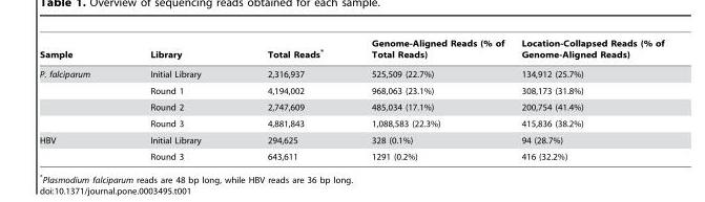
<table><thead><tr><td>Sample</td><td>Library</td><td>Total Reads*</td><td>Genome-Aligned Reads (% of Total Reads)</td><td>Location-Collapsed Reads (% of Genome-Aligned Reads)</td></tr></thead><tbody><tr><td rowspan="4">P. falciparum</td><td>Initial Library</td><td>2,316,937</td><td>525,509 (22.7%)</td><td>134,912 (25.7%)</td></tr><tr><td>Round 1</td><td>4,194,002</td><td>968,063 (23.1%)</td><td>308,173 (31.8%)</td></tr><tr><td>Round 2</td><td>2,747,609</td><td>485,034 (17.1%)</td><td>200,754 (41.4%)</td></tr><tr><td>Round 3</td><td>4,881,843</td><td>1,088,583 (22.3%)</td><td>415,836 (38.2%)</td></tr><tr><td rowspan="2">HBV</td><td>Initial Library</td><td>294,625</td><td>328 (0.1%)</td><td>94 (28.7%)</td></tr><tr><td>Round 3</td><td>643,611</td><td>1291 (0.2%)</td><td>416 (32.2%)</td></tr></tbody></table>